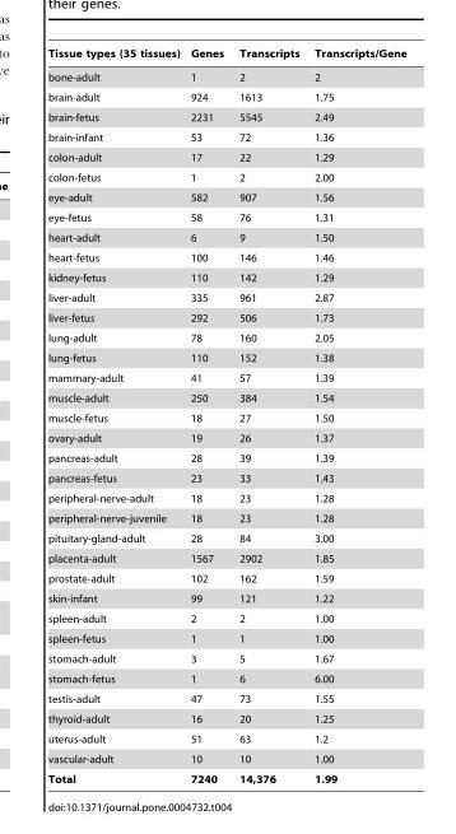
<table><thead><tr><td>Tissue types (35 tissues)</td><td>Genes</td><td>Transcripts</td><td>Transcripts/Gene</td></tr></thead><tbody><tr><td>bone-adult</td><td>1</td><td>2</td><td>2</td></tr><tr><td>brain-adult</td><td>924</td><td>1613</td><td>1.75</td></tr><tr><td>brain-fetus</td><td>2231</td><td>5545</td><td>2.49</td></tr><tr><td>brain-infant</td><td>53</td><td>72</td><td>1.36</td></tr><tr><td>colon-adult</td><td>17</td><td>22</td><td>1.29</td></tr><tr><td>colon-fetus</td><td>1</td><td>2</td><td>2.00</td></tr><tr><td>eye-adult</td><td>582</td><td>907</td><td>1.56</td></tr><tr><td>eye-fetus</td><td>58</td><td>76</td><td>1.31</td></tr><tr><td>heart-adult</td><td>6</td><td>9</td><td>1.50</td></tr><tr><td>heart-fetus</td><td>100</td><td>146</td><td>1.46</td></tr><tr><td>kidney-fetus</td><td>110</td><td>142</td><td>1.29</td></tr><tr><td>liver-adult</td><td>335</td><td>961</td><td>2.87</td></tr><tr><td>liver-fetus</td><td>292</td><td>506</td><td>1.73</td></tr><tr><td>lung-adult</td><td>78</td><td>160</td><td>2.05</td></tr><tr><td>lung-fetus</td><td>110</td><td>152</td><td>1.38</td></tr><tr><td>mammary-adult</td><td>41</td><td>57</td><td>1.39</td></tr><tr><td>muscle-adult</td><td>250</td><td>384</td><td>1.54</td></tr><tr><td>muscle-fetus</td><td>18</td><td>27</td><td>1.50</td></tr><tr><td>ovary-adult</td><td>19</td><td>26</td><td>1.37</td></tr><tr><td>pancreas-adult</td><td>28</td><td>39</td><td>1.39</td></tr><tr><td>pancreas-fetus</td><td>23</td><td>33</td><td>1.43</td></tr><tr><td>peripheral-nerve-adult</td><td>18</td><td>23</td><td>1.28</td></tr><tr><td>peripheral-nerve-juvenile</td><td>18</td><td>23</td><td>1.28</td></tr><tr><td>pituitary-gland-adult</td><td>28</td><td>84</td><td>3.00</td></tr><tr><td>placenta-adult</td><td>1567</td><td>2902</td><td>1.85</td></tr><tr><td>prostate-adult</td><td>102</td><td>162</td><td>1.59</td></tr><tr><td>skin-infant</td><td>99</td><td>121</td><td>1.22</td></tr><tr><td>spleen-adult</td><td>2</td><td>2</td><td>1.00</td></tr><tr><td>spleen-fetus</td><td>1</td><td>1</td><td>1.00</td></tr><tr><td>stomach-adult</td><td>3</td><td>5</td><td>1.67</td></tr><tr><td>stomach-fetus</td><td>1</td><td>6</td><td>6.00</td></tr><tr><td>testis-adult</td><td>47</td><td>73</td><td>1.55</td></tr><tr><td>thyroid-adult</td><td>16</td><td>20</td><td>1.25</td></tr><tr><td>uterus-adult</td><td>51</td><td>63</td><td>1.2</td></tr><tr><td>vascular-adult</td><td>10</td><td>10</td><td>1.00</td></tr><tr><td>Total</td><td>7240</td><td>14,376</td><td>1.99</td></tr></tbody></table>